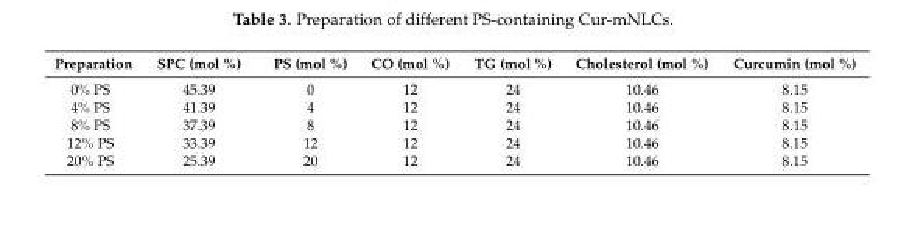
<table><thead><tr><td>Preparation</td><td>SPC (mol %)</td><td>PS (mol %)</td><td>CO (mol %)</td><td>TG (mol %)</td><td>Cholesterol (mol %)</td><td>Curcumin (mol %)</td></tr></thead><tbody><tr><td>0% PS</td><td>45.39</td><td>0</td><td>12</td><td>24</td><td>10.46</td><td>8.15</td></tr><tr><td>4% PS</td><td>41.39</td><td>4</td><td>12</td><td>24</td><td>10.46</td><td>8.15</td></tr><tr><td>8% PS</td><td>37.39</td><td>8</td><td>12</td><td>24</td><td>10.46</td><td>8.15</td></tr><tr><td>12% PS</td><td>33.39</td><td>12</td><td>12</td><td>24</td><td>10.46</td><td>8.15</td></tr><tr><td>20% PS</td><td>25.39</td><td>20</td><td>12</td><td>24</td><td>10.46</td><td>8.15</td></tr></tbody></table>